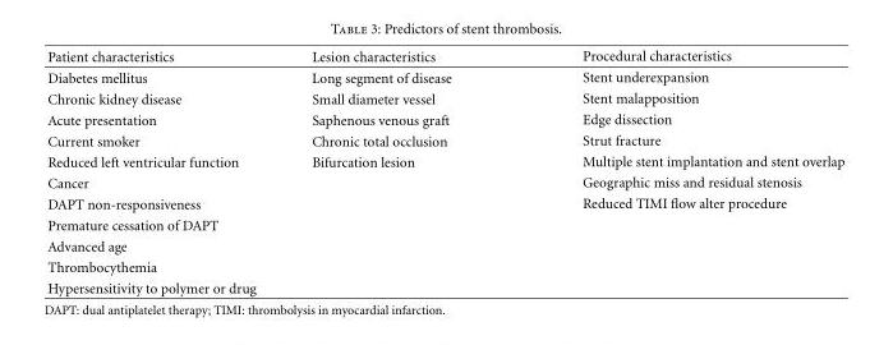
<table><thead><tr><td>Patient characteristics</td><td>Lesion characteristics</td><td>Procedural characteristics</td></tr></thead><tbody><tr><td>Diabetes mellitus</td><td>Long segment of disease</td><td>Stent underexpansion</td></tr><tr><td>Chronic kidney disease</td><td>Small diameter vessel</td><td>Stent malapposition</td></tr><tr><td>Acute presentation</td><td>Saphenous venous graft</td><td>Edge dissection</td></tr><tr><td>Current smoker</td><td>Chronic total occlusion</td><td>Strut fracture</td></tr><tr><td>Reduced left ventricular function</td><td>Bifurcation lesion</td><td>Multiple stent implantation and stent overlap</td></tr><tr><td>Cancer</td><td></td><td>Geographic miss and residual stenosis</td></tr><tr><td>DAPT non-responsiveness</td><td></td><td>Reduced TIMI flow alter procedure</td></tr><tr><td colspan="3">Premature cessation of DAPT</td></tr><tr><td colspan="3">Advanced age</td></tr><tr><td colspan="3">Thrombocythemia</td></tr><tr><td>Hypersensitivity to polymer or drug</td><td></td><td></td></tr></tbody></table>